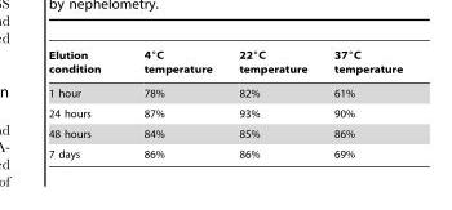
<table><thead><tr><td>Elution condition</td><td>4°C temperature</td><td>22°C temperature</td><td>37°C temperature</td></tr></thead><tbody><tr><td>1 hour</td><td>78%</td><td>82%</td><td>61%</td></tr><tr><td>24 hours</td><td>87%</td><td>93%</td><td>90%</td></tr><tr><td>48 hours</td><td>84%</td><td>85%</td><td>86%</td></tr><tr><td>7 days</td><td>86%</td><td>86%</td><td>69%</td></tr></tbody></table>